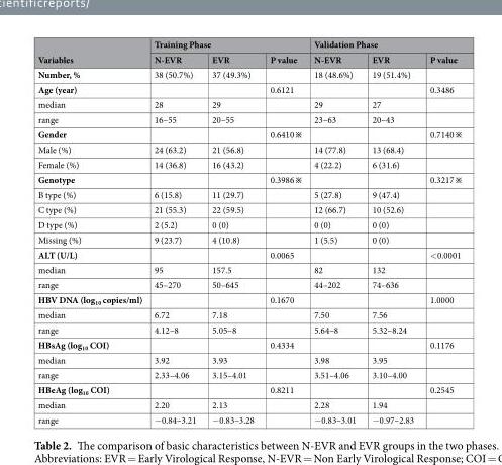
<table><thead><tr><td rowspan="2">Variables</td><td colspan="3">Training Phase</td><td colspan="3">Validation Phase</td></tr><tr><td>N-EVR</td><td>EVR</td><td>P value</td><td>N-EVR</td><td>EVR</td><td>P value</td></tr></thead><tbody><tr><td>Number, %</td><td>38 (50.7%)</td><td>37 (49.3%)</td><td></td><td>18 (48.6%)</td><td>19 (51.4%)</td><td></td></tr><tr><td>Age (year)</td><td></td><td></td><td>0.6121</td><td></td><td></td><td>0.3486</td></tr><tr><td>median</td><td>28</td><td>29</td><td></td><td>29</td><td>27</td><td></td></tr><tr><td>range</td><td>16–55</td><td>20–55</td><td></td><td>23–63</td><td>20–43</td><td></td></tr><tr><td>Gender</td><td></td><td></td><td>0.6410※</td><td></td><td></td><td>0.7140※</td></tr><tr><td>Male (%)</td><td>24 (63.2)</td><td>21 (56.8)</td><td></td><td>14 (77.8)</td><td>13 (68.4)</td><td></td></tr><tr><td>Female (%)</td><td>14 (36.8)</td><td>16 (43.2)</td><td></td><td>4 (22.2)</td><td>6 (31.6)</td><td></td></tr><tr><td>Genotype</td><td></td><td></td><td>0.3986※</td><td></td><td></td><td>0.3217※</td></tr><tr><td>B type (%)</td><td>6 (15.8)</td><td>11 (29.7)</td><td></td><td>5 (27.8)</td><td>9 (47.4)</td><td></td></tr><tr><td>C type (%)</td><td>21 (55.3)</td><td>22 (59.5)</td><td></td><td>12 (66.7)</td><td>10 (52.6)</td><td></td></tr><tr><td>D type (%)</td><td>2 (5.2)</td><td>0 (0)</td><td></td><td>0 (0)</td><td>0 (0)</td><td></td></tr><tr><td>Missing (%)</td><td>9 (23.7)</td><td>4 (10.8)</td><td></td><td>1 (5.5)</td><td>0 (0)</td><td></td></tr><tr><td>ALT (U/L)</td><td></td><td></td><td>0.0065</td><td></td><td></td><td>&lt;0.0001</td></tr><tr><td>median</td><td>95</td><td>157.5</td><td></td><td>82</td><td>132</td><td></td></tr><tr><td>range</td><td>45–270</td><td>50–645</td><td></td><td>44–202</td><td>74–636</td><td></td></tr><tr><td>HBV DNA (log<sub>10</sub> copies/ml)</td><td></td><td></td><td>0.1670</td><td></td><td></td><td>1.0000</td></tr><tr><td>median</td><td>6.72</td><td>7.18</td><td></td><td>7.50</td><td>7.56</td><td></td></tr><tr><td>range</td><td>4.12–8</td><td>5.05–8</td><td></td><td>5.64–8</td><td>5.32–8.24</td><td></td></tr><tr><td>HBsAg (log<sub>10</sub> COI)</td><td></td><td></td><td>0.4334</td><td></td><td></td><td>0.1176</td></tr><tr><td>median</td><td>3.92</td><td>3.93</td><td></td><td>3.98</td><td>3.95</td><td></td></tr><tr><td>range</td><td>2.33–4.06</td><td>3.15–4.01</td><td></td><td>3.51–4.06</td><td>3.10–4.00</td><td></td></tr><tr><td>HBeAg (log<sub>10</sub> COI)</td><td></td><td></td><td>0.8211</td><td></td><td></td><td>0.2545</td></tr><tr><td>median</td><td>2.20</td><td>2.13</td><td></td><td>2.28</td><td>1.94</td><td></td></tr><tr><td>range</td><td>−0.84–3.21</td><td>−0.83–3.28</td><td></td><td>−0.83–3.01</td><td>−0.97–2.83</td><td></td></tr></tbody></table>